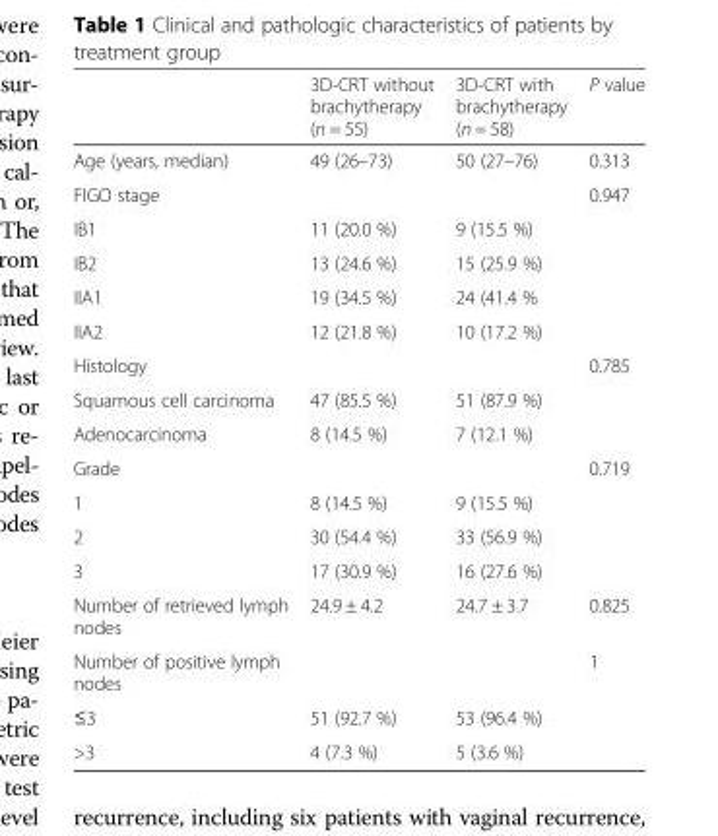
<table><thead><tr><td></td><td>3D-CRT without brachytherapy (n = 55)</td><td>3D-CRT with brachytherapy (n = 58)</td><td>P value</td></tr></thead><tbody><tr><td>Age (years, median)</td><td>49 (26–73)</td><td>50 (27–76)</td><td>0.313</td></tr><tr><td>FIGO stage</td><td></td><td></td><td>0.947</td></tr><tr><td>IB1</td><td>11 (20.0 %)</td><td>9 (15.5 %)</td><td></td></tr><tr><td>IB2</td><td>13 (24.6 %)</td><td>15 (25.9 %)</td><td></td></tr><tr><td>IIA1</td><td>19 (34.5 %)</td><td>24 (41.4 %</td><td></td></tr><tr><td>IIA2</td><td>12 (21.8 %)</td><td>10 (17.2 %)</td><td></td></tr><tr><td>Histology</td><td></td><td></td><td>0.785</td></tr><tr><td>Squamous cell carcinoma</td><td>47 (85.5 %)</td><td>51 (87.9 %)</td><td></td></tr><tr><td>Adenocarcinoma</td><td>8 (14.5 %)</td><td>7 (12.1 %)</td><td></td></tr><tr><td>Grade</td><td></td><td></td><td>0.719</td></tr><tr><td>1</td><td>8 (14.5 %)</td><td>9 (15.5 %)</td><td></td></tr><tr><td>2</td><td>30 (54.4 %)</td><td>33 (56.9 %)</td><td></td></tr><tr><td>3</td><td>17 (30.9 %)</td><td>16 (27.6 %)</td><td></td></tr><tr><td>Number of retrieved lymph nodes</td><td>24.9 ± 4.2</td><td>24.7 ± 3.7</td><td>0.825</td></tr><tr><td>Number of positive lymph nodes</td><td></td><td></td><td>1</td></tr><tr><td>≤3</td><td>51 (92.7 %)</td><td>53 (96.4 %)</td><td></td></tr><tr><td>&gt;3</td><td>4 (7.3 %)</td><td>5 (3.6 %)</td><td></td></tr></tbody></table>